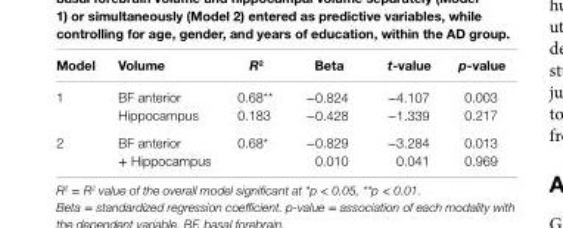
<table><thead><tr><td>Model</td><td>Volume</td><td>R<sup>2</sup></td><td>Beta</td><td>t-value</td><td>p-value</td></tr></thead><tbody><tr><td>1</td><td>BF anterior Hippocampus</td><td>0.68** 0.183</td><td>−0.824 −0.428</td><td>−4.107 −1.339</td><td>0.003 0.217</td></tr><tr><td>2</td><td>BF anterior + Hippocampus</td><td>0.68*</td><td>−0.829 0.010</td><td>−3.284 0.041</td><td>0.013 0.969</td></tr></tbody></table>